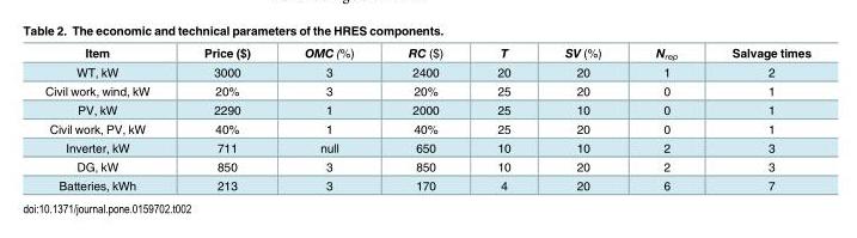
<table><thead><tr><td>Item</td><td>Price ($)</td><td>OMC (%)</td><td>RC ($)</td><td>T</td><td>SV (%)</td><td>N<sub>rep</sub></td><td>Salvage times</td></tr></thead><tbody><tr><td>WT, kW</td><td>3000</td><td>3</td><td>2400</td><td>20</td><td>20</td><td>1</td><td>2</td></tr><tr><td>Civil work, wind, kW</td><td>20%</td><td>3</td><td>20%</td><td>25</td><td>20</td><td>0</td><td>1</td></tr><tr><td>PV, kW</td><td>2290</td><td>1</td><td>2000</td><td>25</td><td>10</td><td>0</td><td>1</td></tr><tr><td>Civil work, PV, kW</td><td>40%</td><td>1</td><td>40%</td><td>25</td><td>20</td><td>0</td><td>1</td></tr><tr><td>Inverter, kW</td><td>711</td><td>null</td><td>650</td><td>10</td><td>10</td><td>2</td><td>3</td></tr><tr><td>DG, kW</td><td>850</td><td>3</td><td>850</td><td>10</td><td>20</td><td>2</td><td>3</td></tr><tr><td>Batteries, kWh</td><td>213</td><td>3</td><td>170</td><td>4</td><td>20</td><td>6</td><td>7</td></tr></tbody></table>